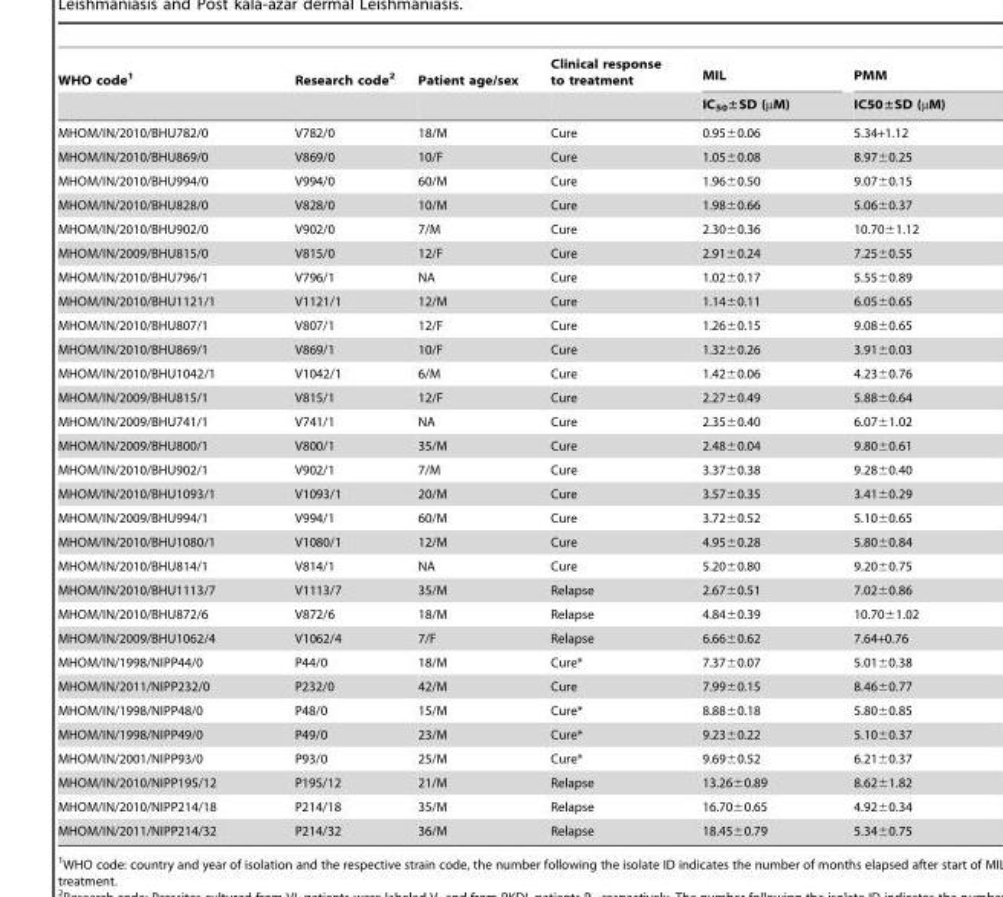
<table><thead><tr><td rowspan="2">WHO code<sup>1</sup></td><td rowspan="2">Research code<sup>2</sup></td><td rowspan="2">Patient age/sex</td><td rowspan="2">Clinical response to treatment</td><td rowspan="2">MIL IC50±SD (µM)</td><td rowspan="2">PMM IC50±SD (µM)</td></tr><tr></tr></thead><tbody><tr><td>MHOM/IN/2010/BHU782/0</td><td>V782/0</td><td>18/M</td><td>Cure</td><td>0.95±0.06</td><td>5.34+1.12</td></tr><tr><td>MHOM/IN/2010/BHU869/0</td><td>V869/0</td><td>10/F</td><td>Cure</td><td>1.05±0.08</td><td>8.97±0.25</td></tr><tr><td>MHOM/IN/2010/BHU994/0</td><td>V994/0</td><td>60/M</td><td>Cure</td><td>1.96±0.50</td><td>9.07±0.15</td></tr><tr><td>MHOM/IN/2010/BHU828/0</td><td>V828/0</td><td>10/M</td><td>Cure</td><td>1.98±0.66</td><td>5.06±0.37</td></tr><tr><td>MHOM/IN/2010/BHU902/0</td><td>V902/0</td><td>7/M</td><td>Cure</td><td>2.30±0.36</td><td>10.70±1.12</td></tr><tr><td>MHOM/IN/2009/BHU815/0</td><td>V815/0</td><td>12/F</td><td>Cure</td><td>2.91±0.24</td><td>7.25±0.55</td></tr><tr><td>MHOM/IN/2010/BHU796/1</td><td>V796/1</td><td>NA</td><td>Cure</td><td>1.02±0.17</td><td>5.55±0.89</td></tr><tr><td>MHOM/IN/2010/BHU1121/1</td><td>V1121/1</td><td>12/M</td><td>Cure</td><td>1.14±0.11</td><td>6.05±0.65</td></tr><tr><td>MHOM/IN/2010/BHU807/1</td><td>V807/1</td><td>12/F</td><td>Cure</td><td>1.26±0.15</td><td>9.08±0.65</td></tr><tr><td>MHOM/IN/2010/BHU869/1</td><td>V869/1</td><td>10/F</td><td>Cure</td><td>1.32±0.26</td><td>3.91±0.03</td></tr><tr><td>MHOM/IN/2010/BHU1042/1</td><td>V1042/1</td><td>6/M</td><td>Cure</td><td>1.42±0.06</td><td>4.23±0.76</td></tr><tr><td>MHOM/IN/2009/BHU815/1</td><td>V815/1</td><td>12/F</td><td>Cure</td><td>2.27±0.49</td><td>5.88±0.64</td></tr><tr><td>MHOM/IN/2009/BHU741/1</td><td>V741/1</td><td>NA</td><td>Cure</td><td>2.35±0.40</td><td>6.07±1.02</td></tr><tr><td>MHOM/IN/2009/BHU800/1</td><td>V800/1</td><td>35/M</td><td>Cure</td><td>2.48±0.04</td><td>9.80±0.61</td></tr><tr><td>MHOM/IN/2010/BHU902/1</td><td>V902/1</td><td>7/M</td><td>Cure</td><td>3.37±0.38</td><td>9.28±0.40</td></tr><tr><td>MHOM/IN/2010/BHU1093/1</td><td>V1093/1</td><td>20/M</td><td>Cure</td><td>3.57±0.35</td><td>3.41±0.29</td></tr><tr><td>MHOM/IN/2009/BHU994/1</td><td>V994/1</td><td>60/M</td><td>Cure</td><td>3.72±0.52</td><td>5.10±0.65</td></tr><tr><td>MHOM/IN/2010/BHU1080/1</td><td>V1080/1</td><td>12/M</td><td>Cure</td><td>4.95±0.28</td><td>5.80±0.84</td></tr><tr><td>MHOM/IN/2010/BHU814/1</td><td>V814/1</td><td>NA</td><td>Cure</td><td>5.20±0.80</td><td>9.20±0.75</td></tr><tr><td>MHOM/IN/2010/BHU1113/7</td><td>V1113/7</td><td>35/M</td><td>Relapse</td><td>2.67±0.51</td><td>7.02±0.86</td></tr><tr><td>MHOM/IN/2010/BHU872/6</td><td>V872/6</td><td>18/M</td><td>Relapse</td><td>4.84±0.39</td><td>10.70±1.02</td></tr><tr><td>MHOM/IN/2009/BHU1062/4</td><td>V1062/4</td><td>7/F</td><td>Relapse</td><td>6.66±0.62</td><td>7.64+0.76</td></tr><tr><td>MHOM/IN/1998/NIPP44/0</td><td>P44/0</td><td>18/M</td><td>Cure*</td><td>7.37±0.07</td><td>5.01±0.38</td></tr><tr><td>MHOM/IN/2011/NIPP232/0</td><td>P232/0</td><td>42/M</td><td>Cure</td><td>7.99±0.15</td><td>8.46±0.77</td></tr><tr><td>MHOM/IN/1998/NIPP48/0</td><td>P48/0</td><td>15/M</td><td>Cure*</td><td>8.88±0.18</td><td>5.80±0.85</td></tr><tr><td>MHOM/IN/1998/NIPP49/0</td><td>P49/0</td><td>23/M</td><td>Cure*</td><td>9.23±0.22</td><td>5.10±0.37</td></tr><tr><td>MHOM/IN/2001/NIPP93/0</td><td>P93/0</td><td>25/M</td><td>Cure*</td><td>9.69±0.52</td><td>6.21±0.37</td></tr><tr><td>MHOM/IN/2010/NIPP195/12</td><td>P195/12</td><td>21/M</td><td>Relapse</td><td>13.26±0.89</td><td>8.62±1.82</td></tr><tr><td>MHOM/IN/2010/NIPP214/18</td><td>P214/18</td><td>35/M</td><td>Relapse</td><td>16.70±0.65</td><td>4.92±0.34</td></tr><tr><td>MHOM/IN/2011/NIPP214/32</td><td>P214/32</td><td>36/M</td><td>Relapse</td><td>18.45±0.79</td><td>5.34±0.75</td></tr></tbody></table>